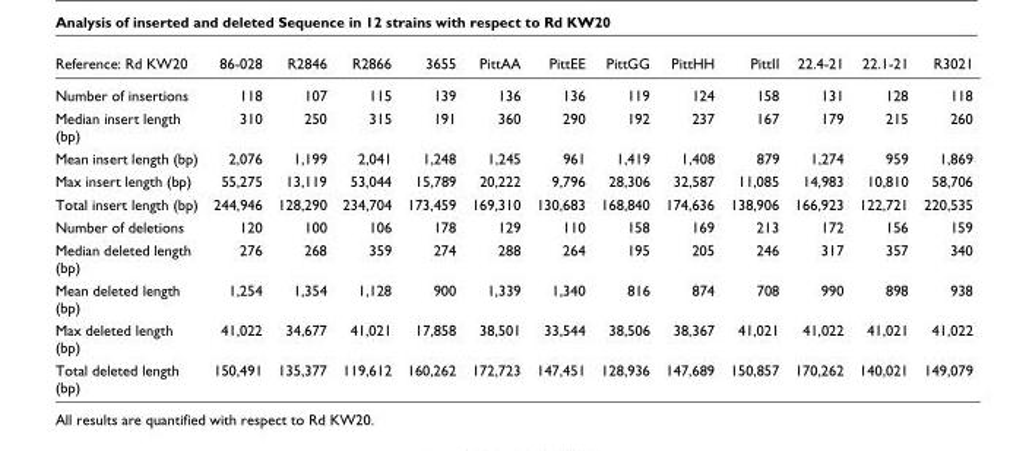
<table><thead><tr><td>Reference: Rd KW20</td><td>86-028</td><td>R2846</td><td>R2866</td><td>3655</td><td>PittAA</td><td>PittEE</td><td>PittGG</td><td>PittHH</td><td>PittII</td><td>22.4-21</td><td>22.1-21</td><td>R3021</td></tr></thead><tbody><tr><td>Number of insertions</td><td>118</td><td>107</td><td>115</td><td>139</td><td>136</td><td>136</td><td>119</td><td>124</td><td>158</td><td>131</td><td>128</td><td>118</td></tr><tr><td>Median insert length (bp)</td><td>310</td><td>250</td><td>315</td><td>191</td><td>360</td><td>290</td><td>192</td><td>237</td><td>167</td><td>179</td><td>215</td><td>260</td></tr><tr><td>Mean insert length (bp)</td><td>2,076</td><td>1,199</td><td>2,041</td><td>1,248</td><td>1,245</td><td>961</td><td>1,419</td><td>1,408</td><td>879</td><td>1,274</td><td>959</td><td>1,869</td></tr><tr><td>Max insert length (bp)</td><td>55,275</td><td>13,119</td><td>53,044</td><td>15,789</td><td>20,222</td><td>9,796</td><td>28,306</td><td>32,587</td><td>11,085</td><td>14,983</td><td>10,810</td><td>58,706</td></tr><tr><td>Total insert length (bp)</td><td>244,946</td><td>128,290</td><td>234,704</td><td>173,459</td><td>169,310</td><td>130,683</td><td>168,840</td><td>174,636</td><td>138,906</td><td>166,923</td><td>122,721</td><td>220,535</td></tr><tr><td>Number of deletions</td><td>120</td><td>100</td><td>106</td><td>178</td><td>129</td><td>110</td><td>158</td><td>169</td><td>213</td><td>172</td><td>156</td><td>159</td></tr><tr><td>Median deleted length (bp)</td><td>276</td><td>268</td><td>359</td><td>274</td><td>288</td><td>264</td><td>195</td><td>205</td><td>246</td><td>317</td><td>357</td><td>340</td></tr><tr><td>Mean deleted length (bp)</td><td>1,254</td><td>1,354</td><td>1,128</td><td>900</td><td>1,339</td><td>1,340</td><td>816</td><td>874</td><td>708</td><td>990</td><td>898</td><td>938</td></tr><tr><td>Max deleted length (bp)</td><td>41,022</td><td>34,677</td><td>41,021</td><td>17,858</td><td>38,501</td><td>33,544</td><td>38,506</td><td>38,367</td><td>41,021</td><td>41,022</td><td>41,021</td><td>41,022</td></tr><tr><td>Total deleted length (bp)</td><td>150,491</td><td>135,377</td><td>119,612</td><td>160,262</td><td>172,723</td><td>147,451</td><td>128,936</td><td>147,689</td><td>150,857</td><td>170,262</td><td>140,021</td><td>149,079</td></tr></tbody></table>